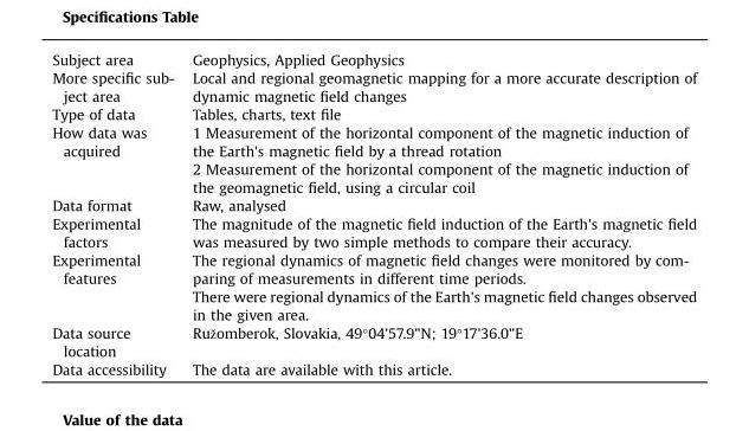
<table><tbody><tr><td>Subject area</td><td>Geophysics, Applied Geophysics</td></tr><tr><td>More specific sub- ject area</td><td>Local and regional geomagnetic mapping for a more accurate description of dynamic magnetic field changes</td></tr><tr><td>Type of data</td><td>Tables, charts, text file</td></tr><tr><td rowspan="2">How data was acquired</td><td>1 Measurement of the horizontal component of the magnetic induction of the Earth&#x27;s magnetic field by a thread rotation</td></tr><tr><td>2 Measurement of the horizontal component of the magnetic induction of the geomagnetic field, using a circular coil</td></tr><tr><td>Data format</td><td>Raw, analysed</td></tr><tr><td>Experimental factors</td><td>The magnitude of the magnetic field induction of the Earth&#x27;s magnetic field was measured by two simple methods to compare their accuracy.</td></tr><tr><td rowspan="2">Experimental features</td><td>The regional dynamics of magnetic field changes were monitored by com- paring of measurements in different time periods.</td></tr><tr><td>There were regional dynamics of the Earth&#x27;s magnetic field changes observed in the given area.</td></tr><tr><td>Data source location</td><td>Ružomberok, Slovakia, 49°04&#x27;57.9&quot;N; 19°17&#x27;36.0&quot;E</td></tr><tr><td>Data accessibility</td><td>The data are available with this article.</td></tr></tbody></table>